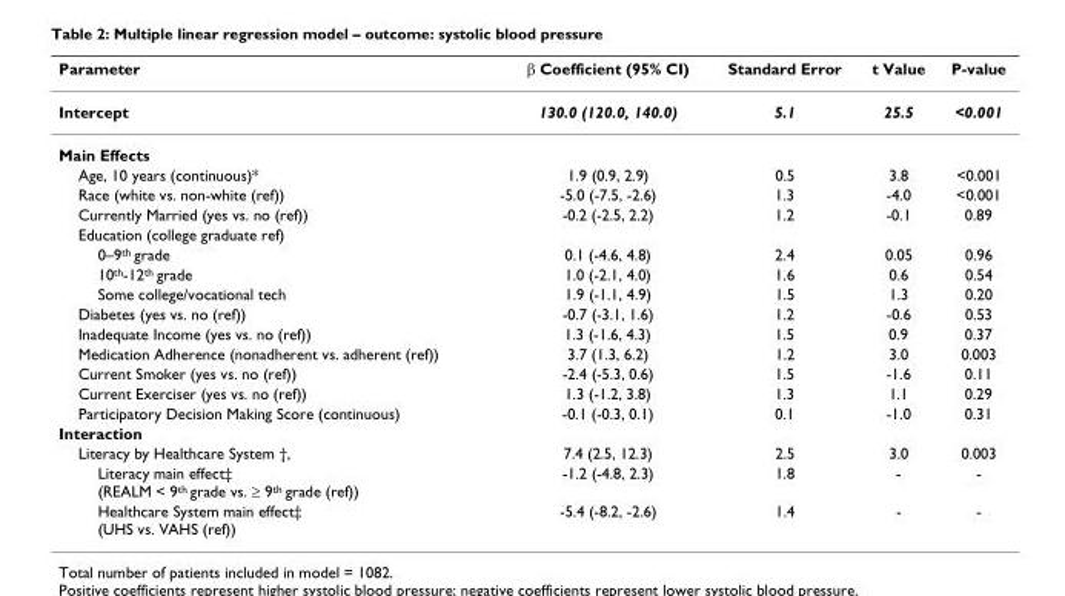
<table><thead><tr><td>Parameter</td><td>β Coefficient (95% CI)</td><td>Standard Error</td><td>t Value</td><td>P-value</td></tr></thead><tbody><tr><td>Intercept</td><td>130.0 (120.0, 140.0)</td><td>5.1</td><td>25.5</td><td>&lt;0.001</td></tr><tr><td colspan="5">Main Effects</td></tr><tr><td>Age, 10 years (continuous)*</td><td>1.9 (0.9, 2.9)</td><td>0.5</td><td>3.8</td><td>&lt;0.001</td></tr><tr><td>Race (white vs. non-white (ref))</td><td>-5.0 (-7.5, -2.6)</td><td>1.3</td><td>-4.0</td><td>&lt;0.001</td></tr><tr><td>Currently Married (yes vs. no (ref))</td><td>-0.2 (-2.5, 2.2)</td><td>1.2</td><td>-0.1</td><td>0.89</td></tr><tr><td colspan="5">Education (college graduate ref)</td></tr><tr><td>0–9<sup>th</sup> grade</td><td>0.1 (-4.6, 4.8)</td><td>2.4</td><td>0.05</td><td>0.96</td></tr><tr><td>10<sup>th</sup>-12<sup>th</sup> grade</td><td>1.0 (-2.1, 4.0)</td><td>1.6</td><td>0.6</td><td>0.54</td></tr><tr><td>Some college/vocational tech</td><td>1.9 (-1.1, 4.9)</td><td>1.5</td><td>1.3</td><td>0.20</td></tr><tr><td>Diabetes (yes vs. no (ref))</td><td>-0.7 (-3.1, 1.6)</td><td>1.2</td><td>-0.6</td><td>0.53</td></tr><tr><td>Inadequate Income (yes vs. no (ref))</td><td>1.3 (-1.6, 4.3)</td><td>1.5</td><td>0.9</td><td>0.37</td></tr><tr><td>Medication Adherence (nonadherent vs. adherent (ref))</td><td>3.7 (1.3, 6.2)</td><td>1.2</td><td>3.0</td><td>0.003</td></tr><tr><td>Current Smoker (yes vs. no (ref))</td><td>-2.4 (-5.3, 0.6)</td><td>1.5</td><td>-1.6</td><td>0.11</td></tr><tr><td>Current Exerciser (yes vs. no (ref))</td><td>1.3 (-1.2, 3.8)</td><td>1.3</td><td>1.1</td><td>0.29</td></tr><tr><td>Participatory Decision Making Score (continuous)</td><td>-0.1 (-0.3, 0.1)</td><td>0.1</td><td>-1.0</td><td>0.31</td></tr><tr><td colspan="5">Interaction</td></tr><tr><td>Literacy by Healthcare System †,</td><td>7.4 (2.5, 12.3)</td><td>2.5</td><td>3.0</td><td>0.003</td></tr><tr><td>Literacy main effect‡ (REALM &lt; 9<sup>th</sup> grade vs. ≥ 9<sup>th</sup> grade (ref))</td><td>-1.2 (-4.8, 2.3)</td><td>1.8</td><td>-</td><td>-</td></tr><tr><td>Healthcare System main effect‡ (UHS vs. VAHS (ref))</td><td>-5.4 (-8.2, -2.6)</td><td>1.4</td><td>-</td><td>-</td></tr></tbody></table>